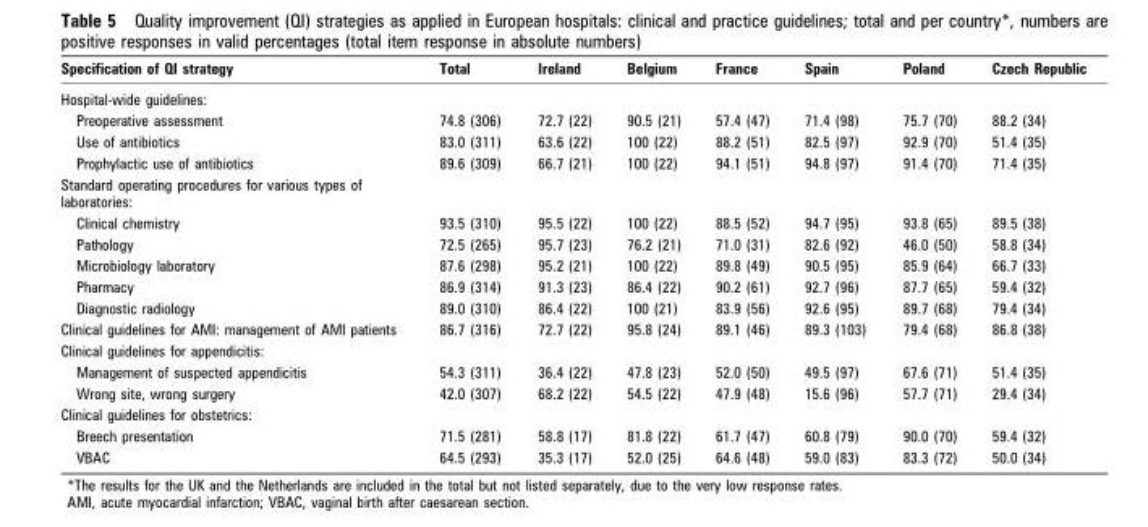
<table><thead><tr><td>Specification of QI strategy</td><td>Total</td><td>Ireland</td><td>Belgium</td><td>France</td><td>Spain</td><td>Poland</td><td>Czech Republic</td></tr></thead><tbody><tr><td colspan="8">Hospital-wide guidelines:</td></tr><tr><td>Preoperative assessment</td><td>74.8 (306)</td><td>72.7 (22)</td><td>90.5 (21)</td><td>57.4 (47)</td><td>71.4 (98)</td><td>75.7 (70)</td><td>88.2 (34)</td></tr><tr><td>Use of antibiotics</td><td>83.0 (311)</td><td>63.6 (22)</td><td>100 (22)</td><td>88.2 (51)</td><td>82.5 (97)</td><td>92.9 (70)</td><td>51.4 (35)</td></tr><tr><td>Prophylactic use of antibiotics</td><td>89.6 (309)</td><td>66.7 (21)</td><td>100 (22)</td><td>94.1 (51)</td><td>94.8 (97)</td><td>91.4 (70)</td><td>71.4 (35)</td></tr><tr><td colspan="8">Standard operating procedures for various types of laboratories:</td></tr><tr><td>Clinical chemistry</td><td>93.5 (310)</td><td>95.5 (22)</td><td>100 (22)</td><td>88.5 (52)</td><td>94.7 (95)</td><td>93.8 (65)</td><td>89.5 (38)</td></tr><tr><td>Pathology</td><td>72.5 (265)</td><td>95.7 (23)</td><td>76.2 (21)</td><td>71.0 (31)</td><td>82.6 (92)</td><td>46.0 (50)</td><td>58.8 (34)</td></tr><tr><td>Microbiology laboratory</td><td>87.6 (298)</td><td>95.2 (21)</td><td>100 (22)</td><td>89.8 (49)</td><td>90.5 (95)</td><td>85.9 (64)</td><td>66.7 (33)</td></tr><tr><td>Pharmacy</td><td>86.9 (314)</td><td>91.3 (23)</td><td>86.4 (22)</td><td>90.2 (61)</td><td>92.7 (96)</td><td>87.7 (65)</td><td>59.4 (32)</td></tr><tr><td>Diagnostic radiology</td><td>89.0 (310)</td><td>86.4 (22)</td><td>100 (21)</td><td>83.9 (56)</td><td>92.6 (95)</td><td>89.7 (68)</td><td>79.4 (34)</td></tr><tr><td>Clinical guidelines for AMI: management of AMI patients</td><td>86.7 (316)</td><td>72.7 (22)</td><td>95.8 (24)</td><td>89.1 (46)</td><td>89.3 (103)</td><td>79.4 (68)</td><td>86.8 (38)</td></tr><tr><td colspan="8">Clinical guidelines for appendicitis:</td></tr><tr><td>Management of suspected appendicitis</td><td>54.3 (311)</td><td>36.4 (22)</td><td>47.8 (23)</td><td>52.0 (50)</td><td>49.5 (97)</td><td>67.6 (71)</td><td>51.4 (35)</td></tr><tr><td>Wrong site, wrong surgery</td><td>42.0 (307)</td><td>68.2 (22)</td><td>54.5 (22)</td><td>47.9 (48)</td><td>15.6 (96)</td><td>57.7 (71)</td><td>29.4 (34)</td></tr><tr><td colspan="8">Clinical guidelines for obstetrics:</td></tr><tr><td>Breech presentation</td><td>71.5 (281)</td><td>58.8 (17)</td><td>81.8 (22)</td><td>61.7 (47)</td><td>60.8 (79)</td><td>90.0 (70)</td><td>59.4 (32)</td></tr><tr><td>VBAC</td><td>64.5 (293)</td><td>35.3 (17)</td><td>52.0 (25)</td><td>64.6 (48)</td><td>59.0 (83)</td><td>83.3 (72)</td><td>50.0 (34)</td></tr></tbody></table>